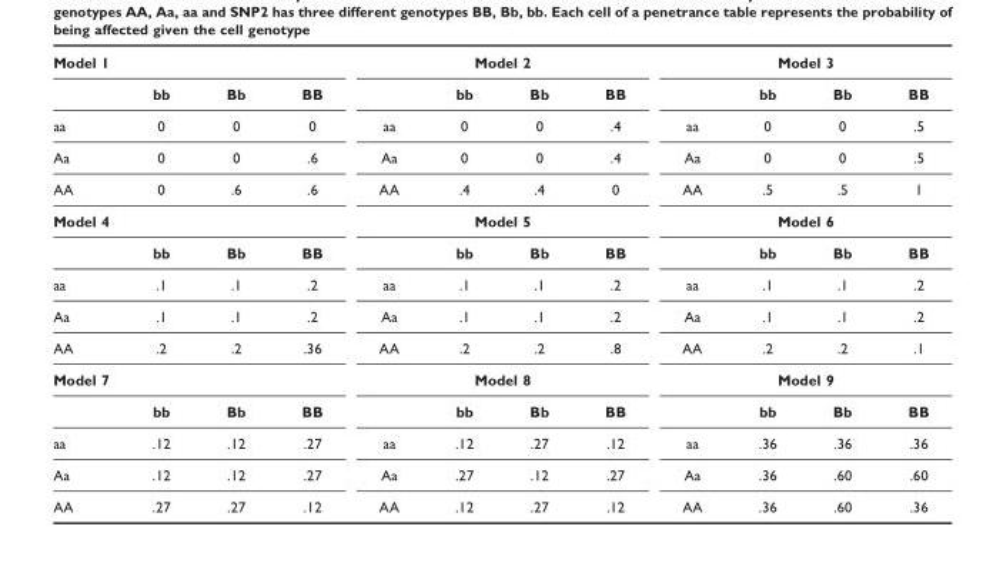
<table><tbody><tr><td colspan="4">Model 1</td><td colspan="4">Model 2</td><td colspan="4">Model 3</td></tr><tr><td></td><td>bb</td><td>Bb</td><td>BB</td><td></td><td>bb</td><td>Bb</td><td>BB</td><td></td><td>bb</td><td>Bb</td><td>BB</td></tr><tr><td>aa</td><td>0</td><td>0</td><td>0</td><td>aa</td><td>0</td><td>0</td><td>.4</td><td>aa</td><td>0</td><td>0</td><td>.5</td></tr><tr><td>Aa</td><td>0</td><td>0</td><td>.6</td><td>Aa</td><td>0</td><td>0</td><td>.4</td><td>Aa</td><td>0</td><td>0</td><td>.5</td></tr><tr><td>AA</td><td>0</td><td>.6</td><td>.6</td><td>AA</td><td>.4</td><td>.4</td><td>0</td><td>AA</td><td>.5</td><td>.5</td><td>1</td></tr><tr><td colspan="4">Model 4</td><td colspan="4">Model 5</td><td colspan="4">Model 6</td></tr><tr><td></td><td>bb</td><td>Bb</td><td>BB</td><td></td><td>bb</td><td>Bb</td><td>BB</td><td></td><td>bb</td><td>Bb</td><td>BB</td></tr><tr><td>aa</td><td>.1</td><td>.1</td><td>.2</td><td>aa</td><td>.1</td><td>.1</td><td>.2</td><td>aa</td><td>.1</td><td>.1</td><td>.2</td></tr><tr><td>Aa</td><td>.1</td><td>.1</td><td>.2</td><td>Aa</td><td>.1</td><td>.1</td><td>.2</td><td>Aa</td><td>.1</td><td>.1</td><td>.2</td></tr><tr><td>AA</td><td>.2</td><td>.2</td><td>.36</td><td>AA</td><td>.2</td><td>.2</td><td>.8</td><td>AA</td><td>.2</td><td>.2</td><td>.1</td></tr><tr><td colspan="4">Model 7</td><td colspan="4">Model 8</td><td colspan="4">Model 9</td></tr><tr><td></td><td>bb</td><td>Bb</td><td>BB</td><td></td><td>bb</td><td>Bb</td><td>BB</td><td></td><td>bb</td><td>Bb</td><td>BB</td></tr><tr><td>aa</td><td>.12</td><td>.12</td><td>.27</td><td>aa</td><td>.12</td><td>.27</td><td>.12</td><td>aa</td><td>.36</td><td>.36</td><td>.36</td></tr><tr><td>Aa</td><td>.12</td><td>.12</td><td>.27</td><td>Aa</td><td>.27</td><td>.12</td><td>.27</td><td>Aa</td><td>.36</td><td>.60</td><td>.60</td></tr><tr><td>AA</td><td>.27</td><td>.27</td><td>.12</td><td>AA</td><td>.12</td><td>.27</td><td>.12</td><td>AA</td><td>.36</td><td>.60</td><td>.36</td></tr></tbody></table>